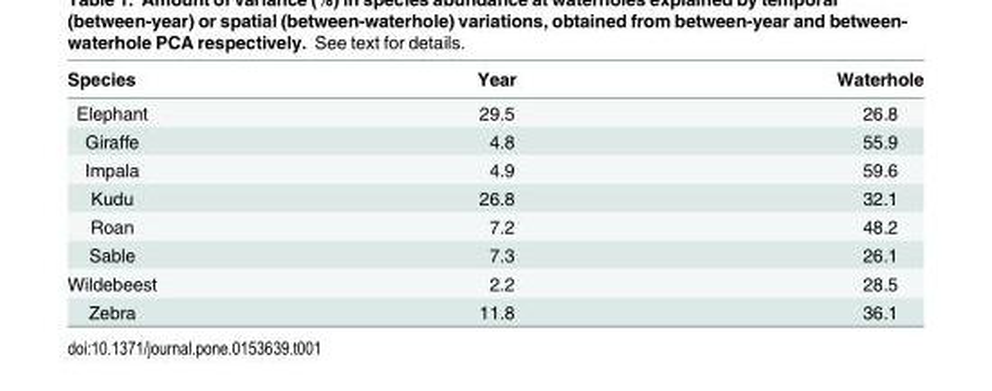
<table><thead><tr><td>Species</td><td>Year</td><td>Waterhole</td></tr></thead><tbody><tr><td>Elephant</td><td>29.5</td><td>26.8</td></tr><tr><td>Giraffe</td><td>4.8</td><td>55.9</td></tr><tr><td>Impala</td><td>4.9</td><td>59.6</td></tr><tr><td>Kudu</td><td>26.8</td><td>32.1</td></tr><tr><td>Roan</td><td>7.2</td><td>48.2</td></tr><tr><td>Sable</td><td>7.3</td><td>26.1</td></tr><tr><td>Wildebeest</td><td>2.2</td><td>28.5</td></tr><tr><td>Zebra</td><td>11.8</td><td>36.1</td></tr></tbody></table>